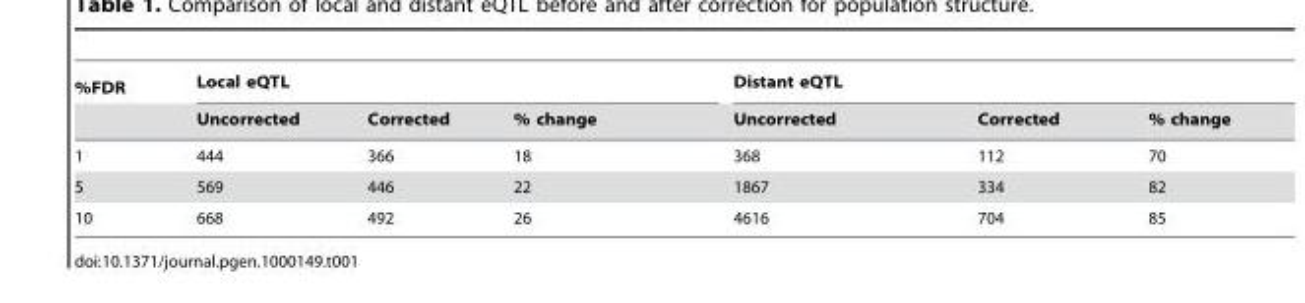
<table><thead><tr><td rowspan="2">%FDR</td><td colspan="3">Local eQTL</td><td colspan="3">Distant eQTL</td></tr><tr><td>Uncorrected</td><td>Corrected</td><td>% change</td><td>Uncorrected</td><td>Corrected</td><td>% change</td></tr></thead><tbody><tr><td>1</td><td>444</td><td>366</td><td>18</td><td>368</td><td>112</td><td>70</td></tr><tr><td>5</td><td>569</td><td>446</td><td>22</td><td>1867</td><td>334</td><td>82</td></tr><tr><td>10</td><td>668</td><td>492</td><td>26</td><td>4616</td><td>704</td><td>85</td></tr></tbody></table>